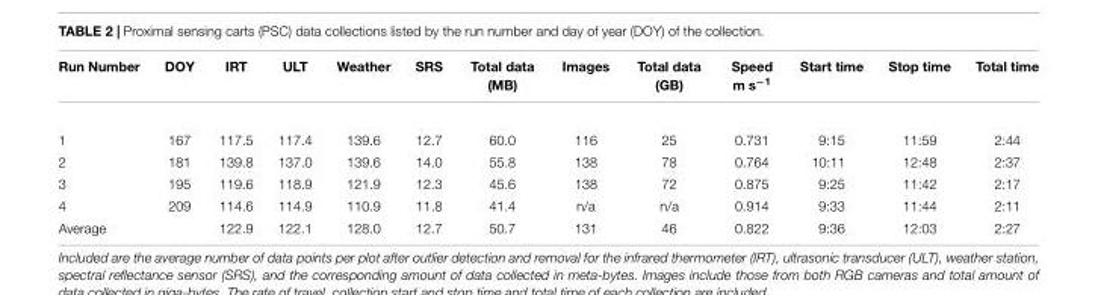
<table><thead><tr><td>Run Number</td><td>DOY</td><td>IRT</td><td>ULT</td><td>Weather</td><td>SRS</td><td>Total data (MB)</td><td>Images</td><td>Total data (GB)</td><td>Speed m s<sup>−1</sup></td><td>Start time</td><td>Stop time</td><td>Total time</td></tr></thead><tbody><tr><td>1</td><td>167</td><td>117.5</td><td>117.4</td><td>139.6</td><td>12.7</td><td>60.0</td><td>116</td><td>25</td><td>0.731</td><td>9:15</td><td>11:59</td><td>2:44</td></tr><tr><td>2</td><td>181</td><td>139.8</td><td>137.0</td><td>139.6</td><td>14.0</td><td>55.8</td><td>138</td><td>78</td><td>0.764</td><td>10:11</td><td>12:48</td><td>2:37</td></tr><tr><td>3</td><td>195</td><td>119.6</td><td>118.9</td><td>121.9</td><td>12.3</td><td>45.6</td><td>138</td><td>72</td><td>0.875</td><td>9:25</td><td>11:42</td><td>2:17</td></tr><tr><td>4</td><td>209</td><td>114.6</td><td>114.9</td><td>110.9</td><td>11.8</td><td>41.4</td><td>n/a</td><td>n/a</td><td>0.914</td><td>9:33</td><td>11:44</td><td>2:11</td></tr><tr><td>Average</td><td></td><td>122.9</td><td>122.1</td><td>128.0</td><td>12.7</td><td>50.7</td><td>131</td><td>46</td><td>0.822</td><td>9:36</td><td>12:03</td><td>2:27</td></tr></tbody></table>